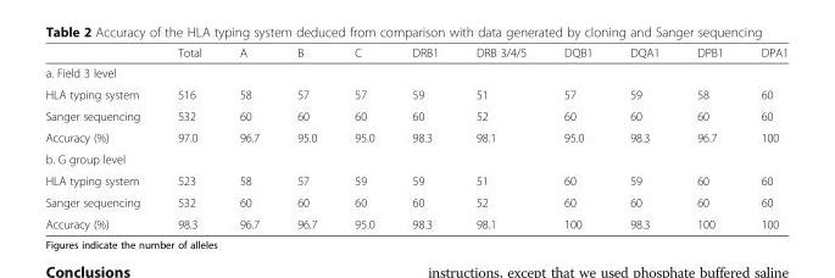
<table><thead><tr><td></td><td>Total</td><td>A</td><td>B</td><td>C</td><td>DRB1</td><td>DRB 3/4/5</td><td>DQB1</td><td>DQA1</td><td>DPB1</td><td>DPA1</td></tr></thead><tbody><tr><td colspan="11">a. Field 3 level</td></tr><tr><td>HLA typing system</td><td>516</td><td>58</td><td>57</td><td>57</td><td>59</td><td>51</td><td>57</td><td>59</td><td>58</td><td>60</td></tr><tr><td>Sanger sequencing</td><td>532</td><td>60</td><td>60</td><td>60</td><td>60</td><td>52</td><td>60</td><td>60</td><td>60</td><td>60</td></tr><tr><td>Accuracy (%)</td><td>97.0</td><td>96.7</td><td>95.0</td><td>95.0</td><td>98.3</td><td>98.1</td><td>95.0</td><td>98.3</td><td>96.7</td><td>100</td></tr><tr><td colspan="11">b. G group level</td></tr><tr><td>HLA typing system</td><td>523</td><td>58</td><td>57</td><td>59</td><td>59</td><td>51</td><td>60</td><td>59</td><td>60</td><td>60</td></tr><tr><td>Sanger sequencing</td><td>532</td><td>60</td><td>60</td><td>60</td><td>60</td><td>52</td><td>60</td><td>60</td><td>60</td><td>60</td></tr><tr><td>Accuracy (%)</td><td>98.3</td><td>96.7</td><td>96.7</td><td>95.0</td><td>98.3</td><td>98.1</td><td>100</td><td>98.3</td><td>100</td><td>100</td></tr></tbody></table>